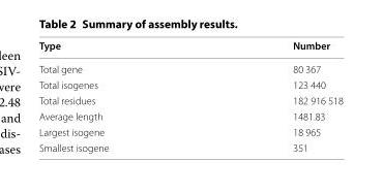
<table><thead><tr><td>Type</td><td>Number</td></tr></thead><tbody><tr><td>Total gene</td><td>80 367</td></tr><tr><td>Total isogenes</td><td>123 440</td></tr><tr><td>Total residues</td><td>182 916 518</td></tr><tr><td>Average length</td><td>1481.83</td></tr><tr><td>Largest isogene</td><td>18 965</td></tr><tr><td>Smallest isogene</td><td>351</td></tr></tbody></table>